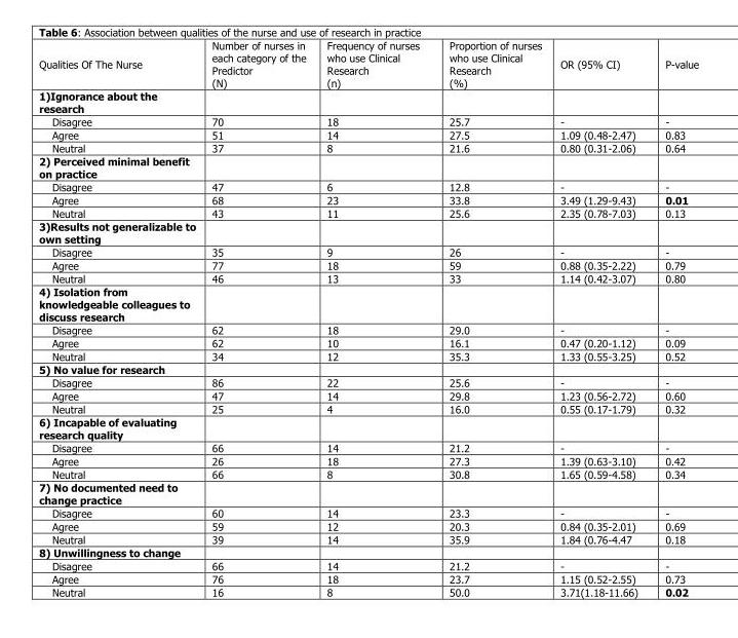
<table><thead><tr><td>Qualities Of The Nurse</td><td>Number of nurses in each category of the Predictor (N)</td><td>Frequency of nurses who use Clinical Research (n)</td><td>Proportion of nurses who use Clinical Research (%)</td><td>OR (95% CI)</td><td>P-value</td></tr></thead><tbody><tr><td colspan="6">1)Ignorance about the research</td></tr><tr><td>Disagree</td><td>70</td><td>18</td><td>25.7</td><td>-</td><td>-</td></tr><tr><td>Agree</td><td>51</td><td>14</td><td>27.5</td><td>1.09 (0.48-2.47)</td><td>0.83</td></tr><tr><td>Neutral</td><td>37</td><td>8</td><td>21.6</td><td>0.80 (0.31-2.06)</td><td>0.64</td></tr><tr><td colspan="6">2) Perceived minimal benefit on practice</td></tr><tr><td>Disagree</td><td>47</td><td>6</td><td>12.8</td><td>-</td><td>-</td></tr><tr><td>Agree</td><td>68</td><td>23</td><td>33.8</td><td>3.49 (1.29-9.43)</td><td>0.01</td></tr><tr><td>Neutral</td><td>43</td><td>11</td><td>25.6</td><td>2.35 (0.78-7.03)</td><td>0.13</td></tr><tr><td colspan="6">3)Results not generalizable to own setting</td></tr><tr><td>Disagree</td><td>35</td><td>9</td><td>26</td><td>-</td><td>-</td></tr><tr><td>Agree</td><td>77</td><td>18</td><td>59</td><td>0.88 (0.35-2.22)</td><td>0.79</td></tr><tr><td>Neutral</td><td>46</td><td>13</td><td>33</td><td>1.14 (0.42-3.07)</td><td>0.80</td></tr><tr><td colspan="6">4) Isolation from knowledgeable colleagues to discuss research</td></tr><tr><td>Disagree</td><td>62</td><td>18</td><td>29.0</td><td>-</td><td>-</td></tr><tr><td>Agree</td><td>62</td><td>10</td><td>16.1</td><td>0.47 (0.20-1.12)</td><td>0.09</td></tr><tr><td>Neutral</td><td>34</td><td>12</td><td>35.3</td><td>1.33 (0.55-3.25)</td><td>0.52</td></tr><tr><td colspan="6">5) No value for research</td></tr><tr><td>Disagree</td><td>86</td><td>22</td><td>25.6</td><td>-</td><td>-</td></tr><tr><td>Agree</td><td>47</td><td>14</td><td>29.8</td><td>1.23 (0.56-2.72)</td><td>0.60</td></tr><tr><td>Neutral</td><td>25</td><td>4</td><td>16.0</td><td>0.55 (0.17-1.79)</td><td>0.32</td></tr><tr><td colspan="6">6) Incapable of evaluating research quality</td></tr><tr><td>Disagree</td><td>66</td><td>14</td><td>21.2</td><td>-</td><td>-</td></tr><tr><td>Agree</td><td>26</td><td>18</td><td>27.3</td><td>1.39 (0.63-3.10)</td><td>0.42</td></tr><tr><td>Neutral</td><td>66</td><td>8</td><td>30.8</td><td>1.65 (0.59-4.58)</td><td>0.34</td></tr><tr><td colspan="6">7) No documented need to change practice</td></tr><tr><td>Disagree</td><td>60</td><td>14</td><td>23.3</td><td>-</td><td>-</td></tr><tr><td>Agree</td><td>59</td><td>12</td><td>20.3</td><td>0.84 (0.35-2.01)</td><td>0.69</td></tr><tr><td>Neutral</td><td>39</td><td>14</td><td>35.9</td><td>1.84 (0.76-4.47</td><td>0.18</td></tr><tr><td colspan="6">8) Unwillingness to change</td></tr><tr><td>Disagree</td><td>66</td><td>14</td><td>21.2</td><td>-</td><td>-</td></tr><tr><td>Agree</td><td>76</td><td>18</td><td>23.7</td><td>1.15 (0.52-2.55)</td><td>0.73</td></tr><tr><td>Neutral</td><td>16</td><td>8</td><td>50.0</td><td>3.71(1.18-11.66)</td><td>0.02</td></tr></tbody></table>